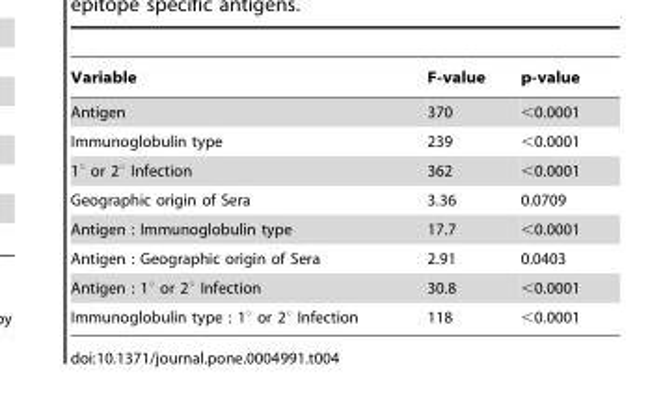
<table><thead><tr><td>Variable</td><td>F-value</td><td>p-value</td></tr></thead><tbody><tr><td>Antigen</td><td>370</td><td>&lt;0.0001</td></tr><tr><td>Immunoglobulin type</td><td>239</td><td>&lt;0.0001</td></tr><tr><td>1° or 2° Infection</td><td>362</td><td>&lt;0.0001</td></tr><tr><td>Geographic origin of Sera</td><td>3.36</td><td>0.0709</td></tr><tr><td>Antigen : Immunoglobulin type</td><td>17.7</td><td>&lt;0.0001</td></tr><tr><td>Antigen : Geographic origin of Sera</td><td>2.91</td><td>0.0403</td></tr><tr><td>Antigen : 1° or 2° Infection</td><td>30.8</td><td>&lt;0.0001</td></tr><tr><td>Immunoglobulin type : 1° or 2° Infection</td><td>118</td><td>&lt;0.0001</td></tr></tbody></table>